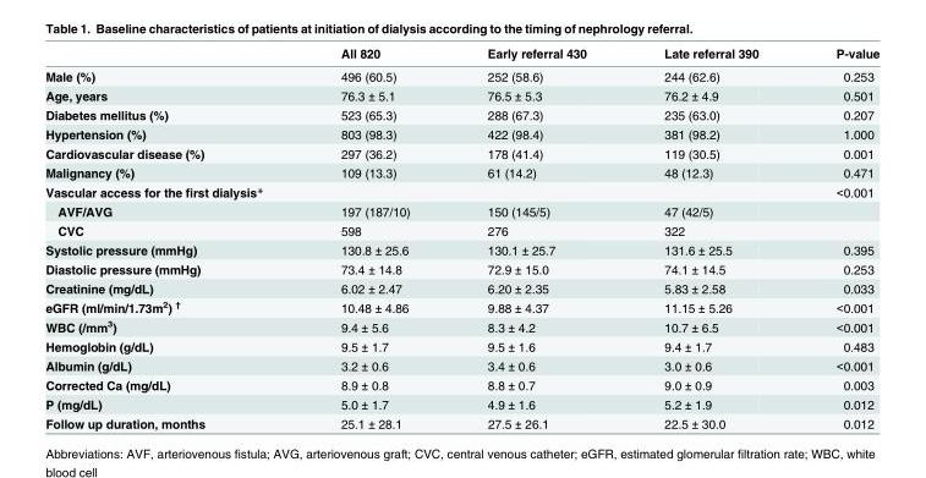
<table><thead><tr><td></td><td>All 820</td><td>Early referral 430</td><td>Late referral 390</td><td>P-value</td></tr></thead><tbody><tr><td>Male (%)</td><td>496 (60.5)</td><td>252 (58.6)</td><td>244 (62.6)</td><td>0.253</td></tr><tr><td>Age, years</td><td>76.3 ± 5.1</td><td>76.5 ± 5.3</td><td>76.2 ± 4.9</td><td>0.501</td></tr><tr><td>Diabetes mellitus (%)</td><td>523 (65.3)</td><td>288 (67.3)</td><td>235 (63.0)</td><td>0.207</td></tr><tr><td>Hypertension (%)</td><td>803 (98.3)</td><td>422 (98.4)</td><td>381 (98.2)</td><td>1.000</td></tr><tr><td>Cardiovascular disease (%)</td><td>297 (36.2)</td><td>178 (41.4)</td><td>119 (30.5)</td><td>0.001</td></tr><tr><td>Malignancy (%)</td><td>109 (13.3)</td><td>61 (14.2)</td><td>48 (12.3)</td><td>0.471</td></tr><tr><td>Vascular access for the first dialysis*</td><td></td><td></td><td></td><td>&lt;0.001</td></tr><tr><td>AVF/AVG</td><td>197 (187/10)</td><td>150 (145/5)</td><td>47 (42/5)</td><td></td></tr><tr><td>CVC</td><td>598</td><td>276</td><td>322</td><td></td></tr><tr><td>Systolic pressure (mmHg)</td><td>130.8 ± 25.6</td><td>130.1 ± 25.7</td><td>131.6 ± 25.5</td><td>0.395</td></tr><tr><td>Diastolic pressure (mmHg)</td><td>73.4 ± 14.8</td><td>72.9 ± 15.0</td><td>74.1 ± 14.5</td><td>0.253</td></tr><tr><td>Creatinine (mg/dL)</td><td>6.02 ± 2.47</td><td>6.20 ± 2.35</td><td>5.83 ± 2.58</td><td>0.033</td></tr><tr><td>eGFR (ml/min/1.73m<sup>2</sup>) <sup>†</sup></td><td>10.48 ± 4.86</td><td>9.88 ± 4.37</td><td>11.15 ± 5.26</td><td>&lt;0.001</td></tr><tr><td>WBC (/mm<sup>3</sup>)</td><td>9.4 ± 5.6</td><td>8.3 ± 4.2</td><td>10.7 ± 6.5</td><td>&lt;0.001</td></tr><tr><td>Hemoglobin (g/dL)</td><td>9.5 ± 1.7</td><td>9.5 ± 1.6</td><td>9.4 ± 1.7</td><td>0.483</td></tr><tr><td>Albumin (g/dL)</td><td>3.2 ± 0.6</td><td>3.4 ± 0.6</td><td>3.0 ± 0.6</td><td>&lt;0.001</td></tr><tr><td>Corrected Ca (mg/dL)</td><td>8.9 ± 0.8</td><td>8.8 ± 0.7</td><td>9.0 ± 0.9</td><td>0.003</td></tr><tr><td>P (mg/dL)</td><td>5.0 ± 1.7</td><td>4.9 ± 1.6</td><td>5.2 ± 1.9</td><td>0.012</td></tr><tr><td>Follow up duration, months</td><td>25.1 ± 28.1</td><td>27.5 ± 26.1</td><td>22.5 ± 30.0</td><td>0.012</td></tr></tbody></table>